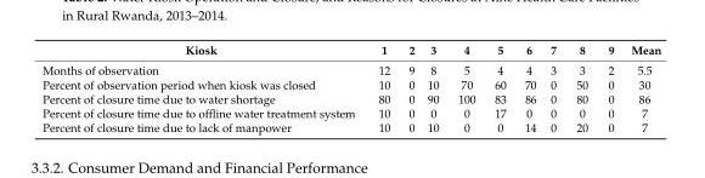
<table><thead><tr><td>Kiosk</td><td>1</td><td>2</td><td>3</td><td>4</td><td>5</td><td>6</td><td>7</td><td>8</td><td>9</td><td>Mean</td></tr></thead><tbody><tr><td>Months of observation</td><td>12</td><td>9</td><td>8</td><td>5</td><td>4</td><td>4</td><td>3</td><td>3</td><td>2</td><td>5.5</td></tr><tr><td>Percent of observation period when kiosk was closed</td><td>10</td><td>0</td><td>10</td><td>70</td><td>60</td><td>70</td><td>0</td><td>50</td><td>0</td><td>30</td></tr><tr><td>Percent of closure time due to water shortage</td><td>80</td><td>0</td><td>90</td><td>100</td><td>83</td><td>86</td><td>0</td><td>80</td><td>0</td><td>86</td></tr><tr><td>Percent of closure time due to offline water treatment system</td><td>10</td><td>0</td><td>0</td><td>0</td><td>17</td><td>0</td><td>0</td><td>0</td><td>0</td><td>7</td></tr><tr><td>Percent of closure time due to lack of manpower</td><td>10</td><td>0</td><td>10</td><td>0</td><td>0</td><td>14</td><td>0</td><td>20</td><td>0</td><td>7</td></tr></tbody></table>